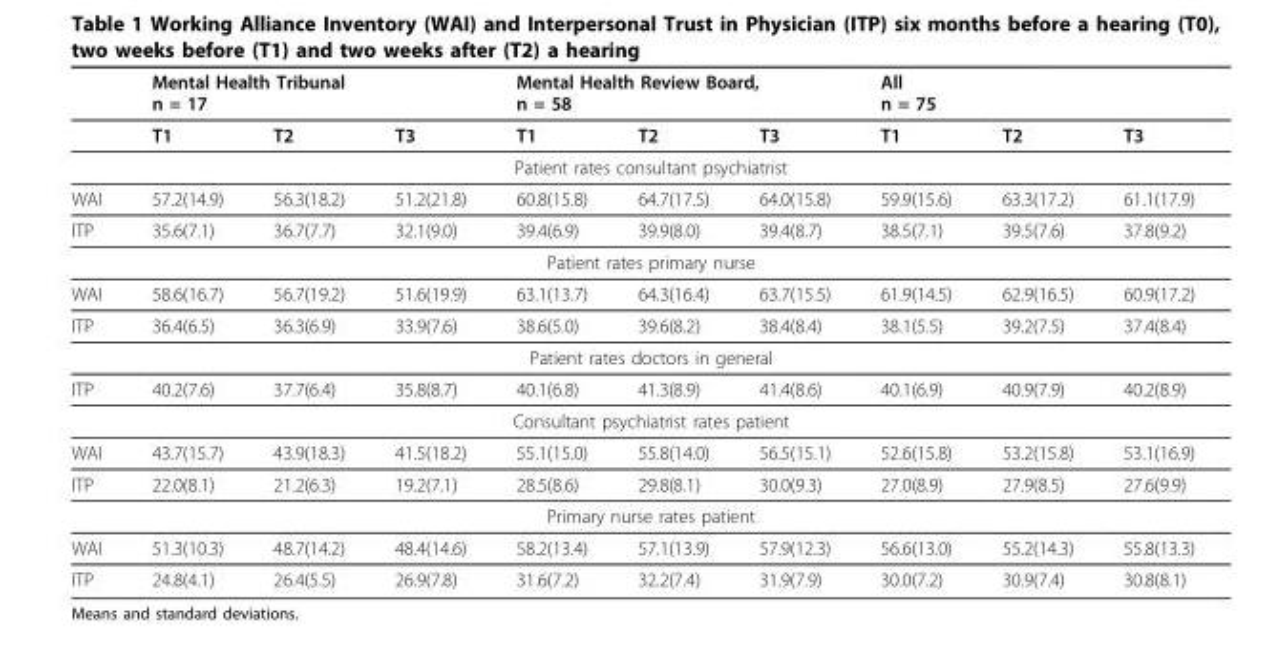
<table><thead><tr><td rowspan="2"></td><td colspan="3">Mental Health Tribunal n = 17</td><td colspan="3">Mental Health Review Board, n = 58</td><td colspan="3">All n = 75</td></tr><tr><td>T1</td><td>T2</td><td>T3</td><td>T1</td><td>T2</td><td>T3</td><td>T1</td><td>T2</td><td>T3</td></tr></thead><tbody><tr><td colspan="10">Patient rates consultant psychiatrist</td></tr><tr><td>WAI</td><td>57.2(14.9)</td><td>56.3(18.2)</td><td>51.2(21.8)</td><td>60.8(15.8)</td><td>64.7(17.5)</td><td>64.0(15.8)</td><td>59.9(15.6)</td><td>63.3(17.2)</td><td>61.1(17.9)</td></tr><tr><td>ITP</td><td>35.6(7.1)</td><td>36.7(7.7)</td><td>32.1(9.0)</td><td>39.4(6.9)</td><td>39.9(8.0)</td><td>39.4(8.7)</td><td>38.5(7.1)</td><td>39.5(7.6)</td><td>37.8(9.2)</td></tr><tr><td colspan="10">Patient rates primary nurse</td></tr><tr><td>WAI</td><td>58.6(16.7)</td><td>56.7(19.2)</td><td>51.6(19.9)</td><td>63.1(13.7)</td><td>64.3(16.4)</td><td>63.7(15.5)</td><td>61.9(14.5)</td><td>62.9(16.5)</td><td>60.9(17.2)</td></tr><tr><td>ITP</td><td>36.4(6.5)</td><td>36.3(6.9)</td><td>33.9(7.6)</td><td>38.6(5.0)</td><td>39.6(8.2)</td><td>38.4(8.4)</td><td>38.1(5.5)</td><td>39.2(7.5)</td><td>37.4(8.4)</td></tr><tr><td colspan="10">Patient rates doctors in general</td></tr><tr><td>ITP</td><td>40.2(7.6)</td><td>37.7(6.4)</td><td>35.8(8.7)</td><td>40.1(6.8)</td><td>41.3(8.9)</td><td>41.4(8.6)</td><td>40.1(6.9)</td><td>40.9(7.9)</td><td>40.2(8.9)</td></tr><tr><td colspan="10">Consultant psychiatrist rates patient</td></tr><tr><td>WAI</td><td>43.7(15.7)</td><td>43.9(18.3)</td><td>41.5(18.2)</td><td>55.1(15.0)</td><td>55.8(14.0)</td><td>56.5(15.1)</td><td>52.6(15.8)</td><td>53.2(15.8)</td><td>53.1(16.9)</td></tr><tr><td>ITP</td><td>22.0(8.1)</td><td>21.2(6.3)</td><td>19.2(7.1)</td><td>28.5(8.6)</td><td>29.8(8.1)</td><td>30.0(9.3)</td><td>27.0(8.9)</td><td>27.9(8.5)</td><td>27.6(9.9)</td></tr><tr><td colspan="10">Primary nurse rates patient</td></tr><tr><td>WAI</td><td>51.3(10.3)</td><td>48.7(14.2)</td><td>48.4(14.6)</td><td>58.2(13.4)</td><td>57.1(13.9)</td><td>57.9(12.3)</td><td>56.6(13.0)</td><td>55.2(14.3)</td><td>55.8(13.3)</td></tr><tr><td>ITP</td><td>24.8(4.1)</td><td>26.4(5.5)</td><td>26.9(7.8)</td><td>31.6(7.2)</td><td>32.2(7.4)</td><td>31.9(7.9)</td><td>30.0(7.2)</td><td>30.9(7.4)</td><td>30.8(8.1)</td></tr></tbody></table>